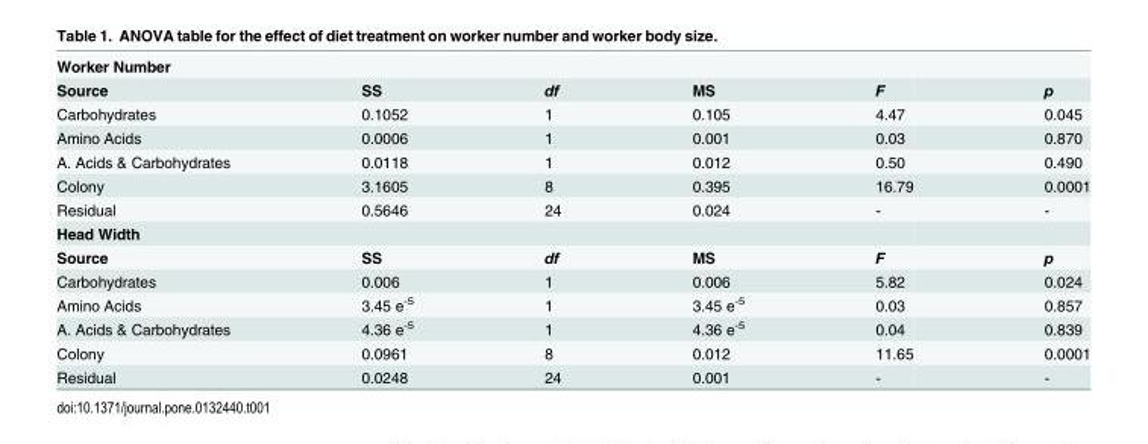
<table><tbody><tr><td colspan="6">Worker Number</td></tr><tr><td>Source</td><td>SS</td><td>df</td><td>MS</td><td>F</td><td>p</td></tr><tr><td>Carbohydrates</td><td>0.1052</td><td>1</td><td>0.105</td><td>4.47</td><td>0.045</td></tr><tr><td>Amino Acids</td><td>0.0006</td><td>1</td><td>0.001</td><td>0.03</td><td>0.870</td></tr><tr><td>A. Acids &amp; Carbohydrates</td><td>0.0118</td><td>1</td><td>0.012</td><td>0.50</td><td>0.490</td></tr><tr><td>Colony</td><td>3.1605</td><td>8</td><td>0.395</td><td>16.79</td><td>0.0001</td></tr><tr><td>Residual</td><td>0.5646</td><td>24</td><td>0.024</td><td>-</td><td>-</td></tr><tr><td colspan="6">Head Width</td></tr><tr><td>Source</td><td>SS</td><td>df</td><td>MS</td><td>F</td><td>p</td></tr><tr><td>Carbohydrates</td><td>0.006</td><td>1</td><td>0.006</td><td>5.82</td><td>0.024</td></tr><tr><td>Amino Acids</td><td>3.45 e<sup>-5</sup></td><td>1</td><td>3.45 e<sup>-5</sup></td><td>0.03</td><td>0.857</td></tr><tr><td>A. Acids &amp; Carbohydrates</td><td>4.36 e<sup>-5</sup></td><td>1</td><td>4.36 e<sup>-5</sup></td><td>0.04</td><td>0.839</td></tr><tr><td>Colony</td><td>0.0961</td><td>8</td><td>0.012</td><td>11.65</td><td>0.0001</td></tr><tr><td>Residual</td><td>0.0248</td><td>24</td><td>0.001</td><td>-</td><td>-</td></tr></tbody></table>